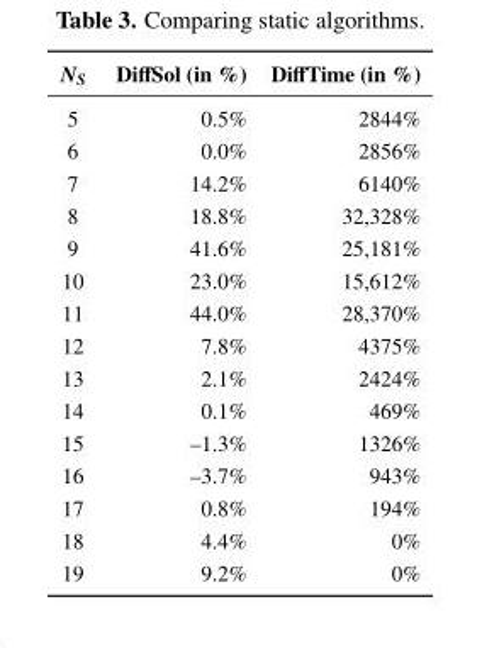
<table><thead><tr><td>N<sub>S</sub></td><td>DiffSol (in %)</td><td>DiffTime (in %)</td></tr></thead><tbody><tr><td>5</td><td>0.5%</td><td>2844%</td></tr><tr><td>6</td><td>0.0%</td><td>2856%</td></tr><tr><td>7</td><td>14.2%</td><td>6140%</td></tr><tr><td>8</td><td>18.8%</td><td>32,328%</td></tr><tr><td>9</td><td>41.6%</td><td>25,181%</td></tr><tr><td>10</td><td>23.0%</td><td>15,612%</td></tr><tr><td>11</td><td>44.0%</td><td>28,370%</td></tr><tr><td>12</td><td>7.8%</td><td>4375%</td></tr><tr><td>13</td><td>2.1%</td><td>2424%</td></tr><tr><td>14</td><td>0.1%</td><td>469%</td></tr><tr><td>15</td><td>–1.3%</td><td>1326%</td></tr><tr><td>16</td><td>–3.7%</td><td>943%</td></tr><tr><td>17</td><td>0.8%</td><td>194%</td></tr><tr><td>18</td><td>4.4%</td><td>0%</td></tr><tr><td>19</td><td>9.2%</td><td>0%</td></tr></tbody></table>